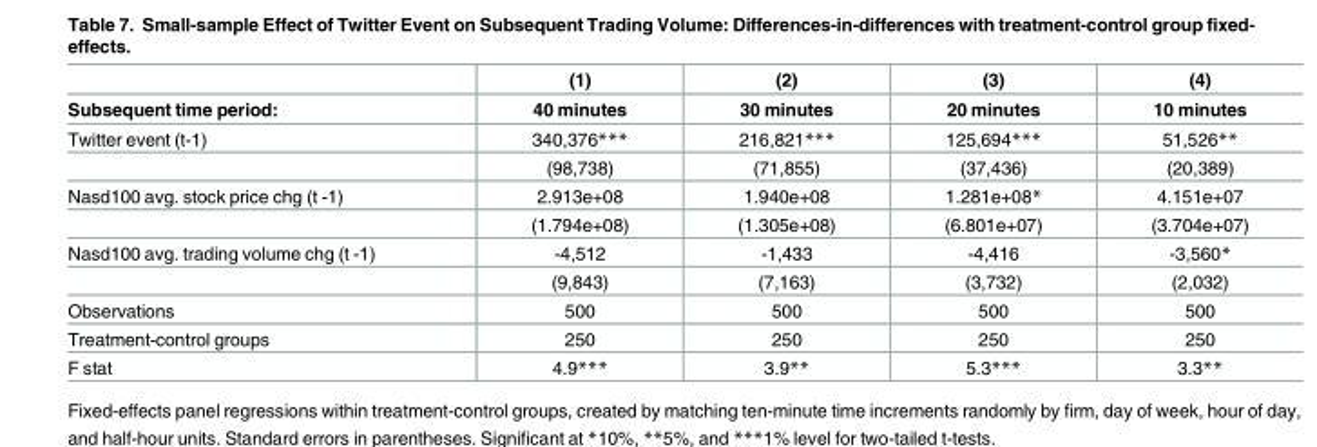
<table><thead><tr><td rowspan="2">Subsequent time period:</td><td rowspan="2">(1) 40 minutes</td><td rowspan="2">(2) 30 minutes</td><td rowspan="2">(3) 20 minutes</td><td rowspan="2">(4) 10 minutes</td></tr><tr></tr></thead><tbody><tr><td rowspan="2">Twitter event (t-1)</td><td>340,376***</td><td>216,821***</td><td>125,694***</td><td>51,526**</td></tr><tr><td>(98,738)</td><td>(71,855)</td><td>(37,436)</td><td>(20,389)</td></tr><tr><td rowspan="2">Nasd100 avg. stock price chg (t -1)</td><td>2.913e+08</td><td>1.940e+08</td><td>1.281e+08*</td><td>4.151e+07</td></tr><tr><td>(1.794e+08)</td><td>(1.305e+08)</td><td>(6.801e+07)</td><td>(3.704e+07)</td></tr><tr><td rowspan="2">Nasd100 avg. trading volume chg (t -1)</td><td>-4,512</td><td>-1,433</td><td>-4,416</td><td>-3,560*</td></tr><tr><td>(9,843)</td><td>(7,163)</td><td>(3,732)</td><td>(2,032)</td></tr><tr><td>Observations</td><td>500</td><td>500</td><td>500</td><td>500</td></tr><tr><td>Treatment-control groups</td><td>250</td><td>250</td><td>250</td><td>250</td></tr><tr><td>F stat</td><td>4.9***</td><td>3.9**</td><td>5.3***</td><td>3.3**</td></tr></tbody></table>